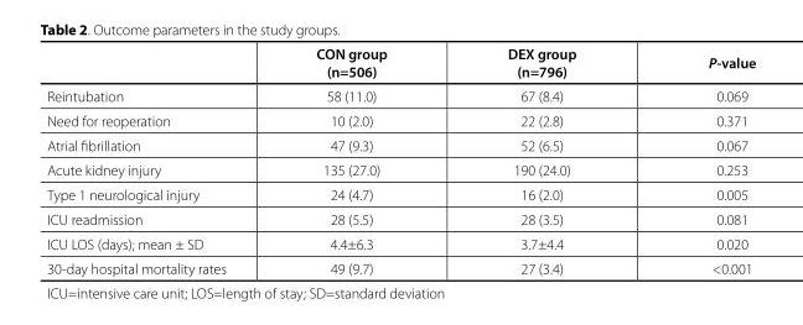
<table><thead><tr><td></td><td>CON group (n=506)</td><td>DEX group (n=796)</td><td>P-value</td></tr></thead><tbody><tr><td>Reintubation</td><td>58 (11.0)</td><td>67 (8.4)</td><td>0.069</td></tr><tr><td>Need for reoperation</td><td>10 (2.0)</td><td>22 (2.8)</td><td>0.371</td></tr><tr><td>Atrial fibrillation</td><td>47 (9.3)</td><td>52 (6.5)</td><td>0.067</td></tr><tr><td>Acute kidney injury</td><td>135 (27.0)</td><td>190 (24.0)</td><td>0.253</td></tr><tr><td>Type 1 neurological injury</td><td>24 (4.7)</td><td>16 (2.0)</td><td>0.005</td></tr><tr><td>ICU readmission</td><td>28 (5.5)</td><td>28 (3.5)</td><td>0.081</td></tr><tr><td>ICU LOS (days); mean ± SD</td><td>4.4±6.3</td><td>3.7±4.4</td><td>0.020</td></tr><tr><td>30-day hospital mortality rates</td><td>49 (9.7)</td><td>27 (3.4)</td><td>&lt;0.001</td></tr></tbody></table>